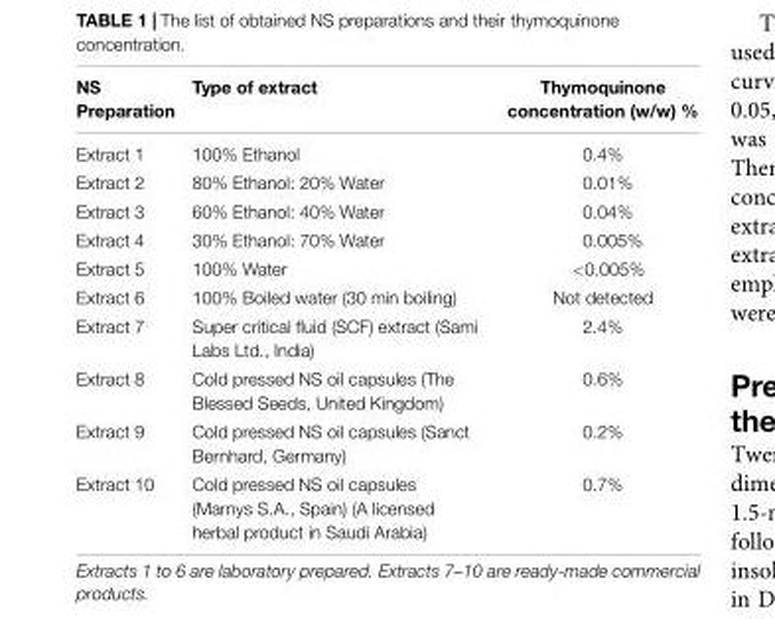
<table><thead><tr><td>NS Preparation</td><td>Type of extract</td><td>Thymoquinone concentration (w/w) %</td></tr></thead><tbody><tr><td>Extract 1</td><td>100% Ethanol</td><td>0.4%</td></tr><tr><td>Extract 2</td><td>80% Ethanol: 20% Water</td><td>0.01%</td></tr><tr><td>Extract 3</td><td>60% Ethanol: 40% Water</td><td>0.04%</td></tr><tr><td>Extract 4</td><td>30% Ethanol: 70% Water</td><td>0.005%</td></tr><tr><td>Extract 5</td><td>100% Water</td><td>&lt;0.005%</td></tr><tr><td>Extract 6</td><td>100% Boiled water (30 min boiling)</td><td>Not detected</td></tr><tr><td>Extract 7</td><td>Super critical fluid (SCF) extract (Sami Labs Ltd., India)</td><td>2.4%</td></tr><tr><td>Extract 8</td><td>Cold pressed NS oil capsules (The Blessed Seeds, United Kingdom)</td><td>0.6%</td></tr><tr><td>Extract 9</td><td>Cold pressed NS oil capsules (Sanct Bernhard, Germany)</td><td>0.2%</td></tr><tr><td>Extract 10</td><td>Cold pressed NS oil capsules (Marnys S.A., Spain) (A licensed herbal product in Saudi Arabia)</td><td>0.7%</td></tr></tbody></table>